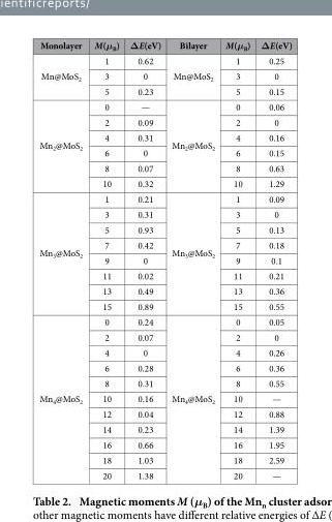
<table><thead><tr><td>Monolayer</td><td>M(μ<sub>B</sub>)</td><td>ΔE(eV)</td><td>Bilayer</td><td>M(μ<sub>B</sub>)</td><td>ΔE(eV)</td></tr></thead><tbody><tr><td rowspan="3">Mn@MoS<sub>2</sub></td><td>1</td><td>0.62</td><td rowspan="3">Mn@MoS<sub>2</sub></td><td>1</td><td>0.25</td></tr><tr><td>3</td><td>0</td><td>3</td><td>0</td></tr><tr><td>5</td><td>0.23</td><td>5</td><td>0.15</td></tr><tr><td rowspan="6">Mn<sub>2</sub>@MoS<sub>2</sub></td><td>0</td><td>—</td><td rowspan="6">Mn<sub>2</sub>@MoS<sub>2</sub></td><td>0</td><td>0.06</td></tr><tr><td>2</td><td>0.09</td><td>2</td><td>0</td></tr><tr><td>4</td><td>0.31</td><td>4</td><td>0.16</td></tr><tr><td>6</td><td>0</td><td>6</td><td>0.15</td></tr><tr><td>8</td><td>0.07</td><td>8</td><td>0.63</td></tr><tr><td>10</td><td>0.32</td><td>10</td><td>1.29</td></tr><tr><td rowspan="8">Mn<sub>3</sub>@MoS<sub>2</sub></td><td>1</td><td>0.21</td><td rowspan="8">Mn<sub>3</sub>@MoS<sub>2</sub></td><td>1</td><td>0.09</td></tr><tr><td>3</td><td>0.31</td><td>3</td><td>0</td></tr><tr><td>5</td><td>0.93</td><td>5</td><td>0.13</td></tr><tr><td>7</td><td>0.42</td><td>7</td><td>0.18</td></tr><tr><td>9</td><td>0</td><td>9</td><td>0.1</td></tr><tr><td>11</td><td>0.02</td><td>11</td><td>0.21</td></tr><tr><td>13</td><td>0.49</td><td>13</td><td>0.36</td></tr><tr><td>15</td><td>0.89</td><td>15</td><td>0.55</td></tr><tr><td rowspan="11">Mn<sub>4</sub>@MoS<sub>2</sub></td><td>0</td><td>0.24</td><td rowspan="11">Mn<sub>4</sub>@MoS<sub>2</sub></td><td>0</td><td>0.05</td></tr><tr><td>2</td><td>0.07</td><td>2</td><td>0</td></tr><tr><td>4</td><td>0</td><td>4</td><td>0.26</td></tr><tr><td>6</td><td>0.28</td><td>6</td><td>0.36</td></tr><tr><td>8</td><td>0.31</td><td>8</td><td>0.55</td></tr><tr><td>10</td><td>0.16</td><td>10</td><td>—</td></tr><tr><td>12</td><td>0.04</td><td>12</td><td>0.88</td></tr><tr><td>14</td><td>0.23</td><td>14</td><td>1.39</td></tr><tr><td>16</td><td>0.66</td><td>16</td><td>1.95</td></tr><tr><td>18</td><td>1.03</td><td>18</td><td>2.59</td></tr><tr><td>20</td><td>1.38</td><td>20</td><td>—</td></tr></tbody></table>